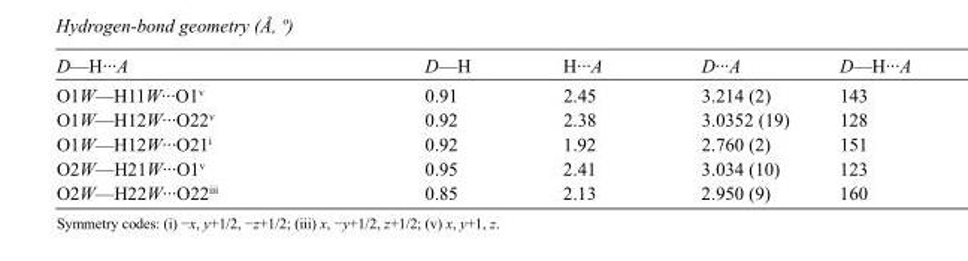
<table><tbody><tr><td>D—H···A</td><td>D—H</td><td>H···A</td><td>D···A</td><td>D—H···A</td></tr><tr><td>O1W—H11W···O1<sup>v</sup></td><td>0.91</td><td>2.45</td><td>3.214 (2)</td><td>143</td></tr><tr><td>O1W—H12W···O22<sup>v</sup></td><td>0.92</td><td>2.38</td><td>3.0352 (19)</td><td>128</td></tr><tr><td>O1W—H12W···O21<sup>i</sup></td><td>0.92</td><td>1.92</td><td>2.760 (2)</td><td>151</td></tr><tr><td>O2W—H21W···O1<sup>v</sup></td><td>0.95</td><td>2.41</td><td>3.034 (10)</td><td>123</td></tr><tr><td>O2W—H22W···O22<sup>iii</sup></td><td>0.85</td><td>2.13</td><td>2.950 (9)</td><td>160</td></tr></tbody></table>